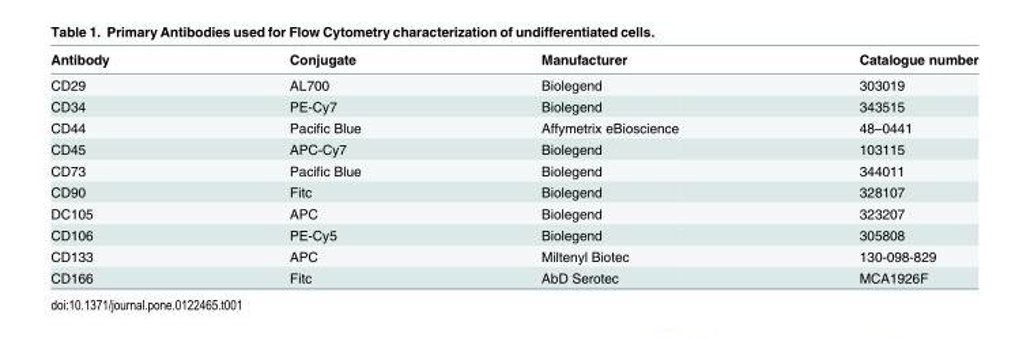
<table><thead><tr><td>Antibody</td><td>Conjugate</td><td>Manufacturer</td><td>Catalogue number</td></tr></thead><tbody><tr><td>CD29</td><td>AL700</td><td>Biolegend</td><td>303019</td></tr><tr><td>CD34</td><td>PE-Cy7</td><td>Biolegend</td><td>343515</td></tr><tr><td>CD44</td><td>Pacific Blue</td><td>Affymetrix eBioscience</td><td>48–0441</td></tr><tr><td>CD45</td><td>APC-Cy7</td><td>Biolegend</td><td>103115</td></tr><tr><td>CD73</td><td>Pacific Blue</td><td>Biolegend</td><td>344011</td></tr><tr><td>CD90</td><td>Fitc</td><td>Biolegend</td><td>328107</td></tr><tr><td>DC105</td><td>APC</td><td>Biolegend</td><td>323207</td></tr><tr><td>CD106</td><td>PE-Cy5</td><td>Biolegend</td><td>305808</td></tr><tr><td>CD133</td><td>APC</td><td>Miltenyl Biotec</td><td>130-098-829</td></tr><tr><td>CD166</td><td>Fitc</td><td>AbD Serotec</td><td>MCA1926F</td></tr></tbody></table>